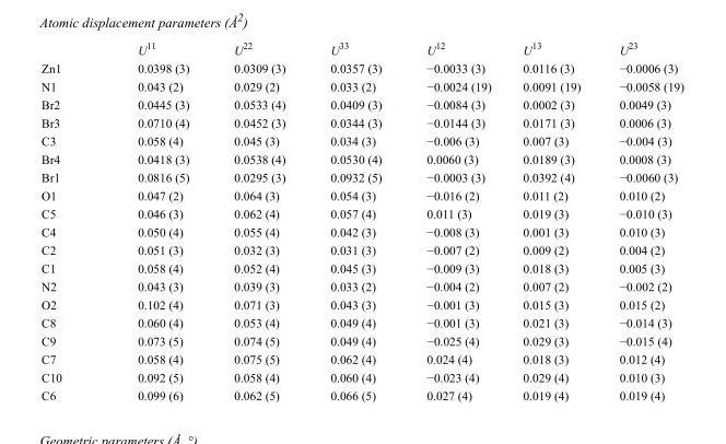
<table><thead><tr><td></td><td>U<sup>11</sup></td><td>U<sup>22</sup></td><td>U<sup>33</sup></td><td>U<sup>12</sup></td><td>U<sup>13</sup></td><td>U<sup>23</sup></td></tr></thead><tbody><tr><td>Zn1</td><td>0.0398 (3)</td><td>0.0309 (3)</td><td>0.0357 (3)</td><td>−0.0033 (3)</td><td>0.0116 (3)</td><td>−0.0006 (3)</td></tr><tr><td>N1</td><td>0.043 (2)</td><td>0.029 (2)</td><td>0.033 (2)</td><td>−0.0024 (19)</td><td>0.0091 (19)</td><td>−0.0058 (19)</td></tr><tr><td>Br2</td><td>0.0445 (3)</td><td>0.0533 (4)</td><td>0.0409 (3)</td><td>−0.0084 (3)</td><td>0.0002 (3)</td><td>0.0049 (3)</td></tr><tr><td>Br3</td><td>0.0710 (4)</td><td>0.0452 (3)</td><td>0.0344 (3)</td><td>−0.0144 (3)</td><td>0.0171 (3)</td><td>0.0006 (3)</td></tr><tr><td>C3</td><td>0.058 (4)</td><td>0.045 (3)</td><td>0.034 (3)</td><td>−0.006 (3)</td><td>0.007 (3)</td><td>−0.004 (3)</td></tr><tr><td>Br4</td><td>0.0418 (3)</td><td>0.0538 (4)</td><td>0.0530 (4)</td><td>0.0060 (3)</td><td>0.0189 (3)</td><td>0.0008 (3)</td></tr><tr><td>Br1</td><td>0.0816 (5)</td><td>0.0295 (3)</td><td>0.0932 (5)</td><td>−0.0003 (3)</td><td>0.0392 (4)</td><td>−0.0060 (3)</td></tr><tr><td>O1</td><td>0.047 (2)</td><td>0.064 (3)</td><td>0.054 (3)</td><td>−0.016 (2)</td><td>0.011 (2)</td><td>0.010 (2)</td></tr><tr><td>C5</td><td>0.046 (3)</td><td>0.062 (4)</td><td>0.057 (4)</td><td>0.011 (3)</td><td>0.019 (3)</td><td>−0.010 (3)</td></tr><tr><td>C4</td><td>0.050 (4)</td><td>0.055 (4)</td><td>0.042 (3)</td><td>−0.008 (3)</td><td>0.001 (3)</td><td>0.010 (3)</td></tr><tr><td>C2</td><td>0.051 (3)</td><td>0.032 (3)</td><td>0.031 (3)</td><td>−0.007 (2)</td><td>0.009 (2)</td><td>0.004 (2)</td></tr><tr><td>C1</td><td>0.058 (4)</td><td>0.052 (4)</td><td>0.045 (3)</td><td>−0.009 (3)</td><td>0.018 (3)</td><td>0.005 (3)</td></tr><tr><td>N2</td><td>0.043 (3)</td><td>0.039 (3)</td><td>0.033 (2)</td><td>−0.004 (2)</td><td>0.007 (2)</td><td>−0.002 (2)</td></tr><tr><td>O2</td><td>0.102 (4)</td><td>0.071 (3)</td><td>0.043 (3)</td><td>−0.001 (3)</td><td>0.015 (3)</td><td>0.015 (2)</td></tr><tr><td>C8</td><td>0.060 (4)</td><td>0.053 (4)</td><td>0.049 (4)</td><td>−0.001 (3)</td><td>0.021 (3)</td><td>−0.014 (3)</td></tr><tr><td>C9</td><td>0.073 (5)</td><td>0.074 (5)</td><td>0.049 (4)</td><td>−0.025 (4)</td><td>0.029 (3)</td><td>−0.015 (4)</td></tr><tr><td>C7</td><td>0.058 (4)</td><td>0.075 (5)</td><td>0.062 (4)</td><td>0.024 (4)</td><td>0.018 (3)</td><td>0.012 (4)</td></tr><tr><td>C10</td><td>0.092 (5)</td><td>0.058 (4)</td><td>0.060 (4)</td><td>−0.023 (4)</td><td>0.029 (4)</td><td>0.010 (3)</td></tr><tr><td>C6</td><td>0.099 (6)</td><td>0.062 (5)</td><td>0.066 (5)</td><td>0.027 (4)</td><td>0.019 (4)</td><td>0.019 (4)</td></tr></tbody></table>